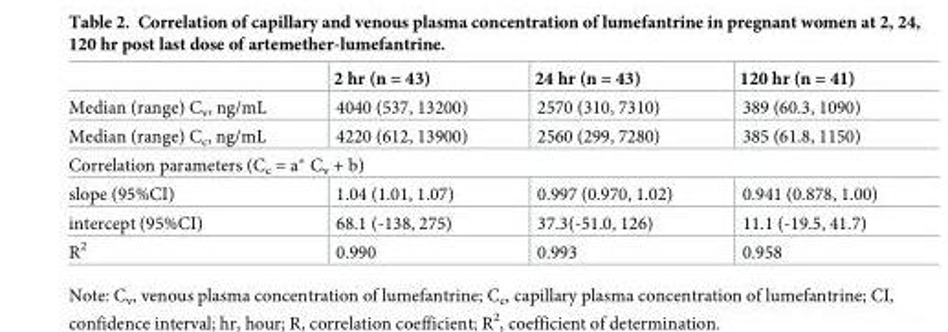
<table><thead><tr><td></td><td>2 hr (n = 43)</td><td>24 hr (n = 43)</td><td>120 hr (n = 41)</td></tr></thead><tbody><tr><td>Median (range) C<sub>v</sub>, ng/mL</td><td>4040 (537, 13200)</td><td>2570 (310, 7310)</td><td>389 (60.3, 1090)</td></tr><tr><td>Median (range) C<sub>c</sub>, ng/mL</td><td>4220 (612, 13900)</td><td>2560 (299, 7280)</td><td>385 (61.8, 1150)</td></tr><tr><td colspan="4">Correlation parameters (C<sub>c</sub> = a* C<sub>v</sub> + b)</td></tr><tr><td>slope (95%CI)</td><td>1.04 (1.01, 1.07)</td><td>0.997 (0.970, 1.02)</td><td>0.941 (0.878, 1.00)</td></tr><tr><td>intercept (95%CI)</td><td>68.1 (-138, 275)</td><td>37.3(-51.0, 126)</td><td>11.1 (-19.5, 41.7)</td></tr><tr><td>R<sup>2</sup></td><td>0.990</td><td>0.993</td><td>0.958</td></tr></tbody></table>